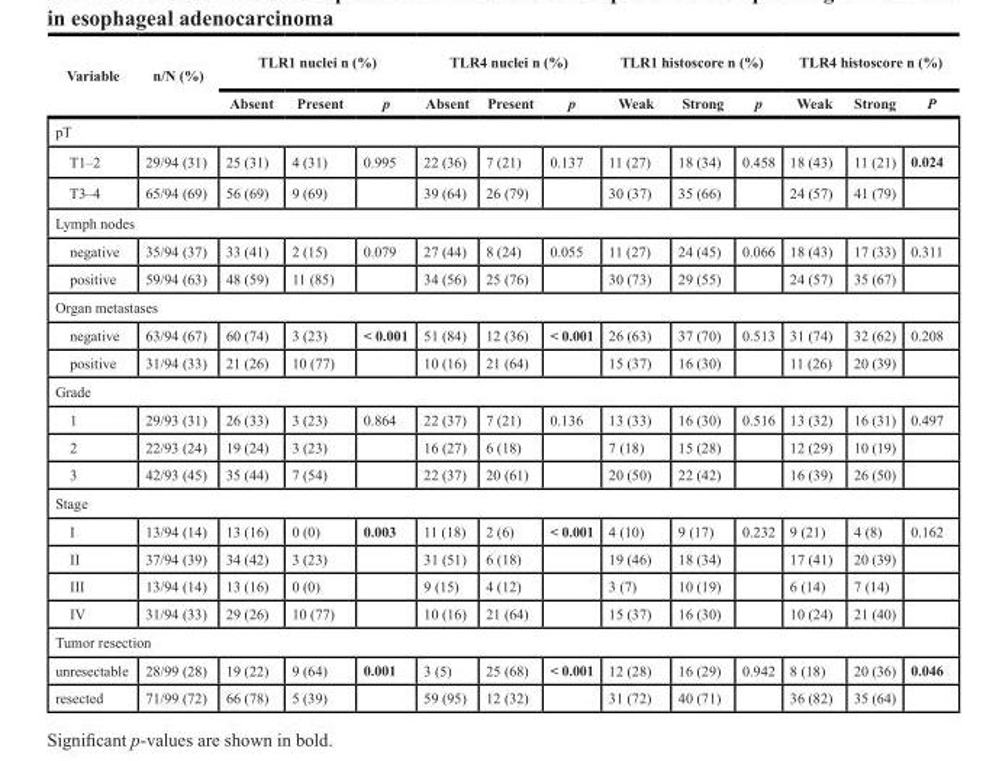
<table><thead><tr><td rowspan="2">Variable</td><td rowspan="2">n/N (%)</td><td colspan="3">TLR1 nuclei n (%)</td><td colspan="3">TLR4 nuclei n (%)</td><td colspan="3">TLR1 histoscore n (%)</td><td colspan="3">TLR4 histoscore n (%)</td></tr><tr><td>Absent</td><td>Present</td><td>p</td><td>Absent</td><td>Present</td><td>p</td><td>Weak</td><td>Strong</td><td>p</td><td>Weak</td><td>Strong</td><td>P</td></tr></thead><tbody><tr><td colspan="14">pT</td></tr><tr><td>T1–2</td><td>29/94 (31)</td><td>25 (31)</td><td>4 (31)</td><td>0.995</td><td>22 (36)</td><td>7 (21)</td><td>0.137</td><td>11 (27)</td><td>18 (34)</td><td>0.458</td><td>18 (43)</td><td>11 (21)</td><td>0.024</td></tr><tr><td>T3–4</td><td>65/94 (69)</td><td>56 (69)</td><td>9 (69)</td><td></td><td>39 (64)</td><td>26 (79)</td><td></td><td>30 (37)</td><td>35 (66)</td><td></td><td>24 (57)</td><td>41 (79)</td><td></td></tr><tr><td colspan="14">Lymph nodes</td></tr><tr><td>negative</td><td>35/94 (37)</td><td>33 (41)</td><td>2 (15)</td><td>0.079</td><td>27 (44)</td><td>8 (24)</td><td>0.055</td><td>11 (27)</td><td>24 (45)</td><td>0.066</td><td>18 (43)</td><td>17 (33)</td><td>0.311</td></tr><tr><td>positive</td><td>59/94 (63)</td><td>48 (59)</td><td>11 (85)</td><td></td><td>34 (56)</td><td>25 (76)</td><td></td><td>30 (73)</td><td>29 (55)</td><td></td><td>24 (57)</td><td>35 (67)</td><td></td></tr><tr><td colspan="14">Organ metastases</td></tr><tr><td>negative</td><td>63/94 (67)</td><td>60 (74)</td><td>3 (23)</td><td>&lt; 0.001</td><td>51 (84)</td><td>12 (36)</td><td>&lt; 0.001</td><td>26 (63)</td><td>37 (70)</td><td>0.513</td><td>31 (74)</td><td>32 (62)</td><td>0.208</td></tr><tr><td>positive</td><td>31/94 (33)</td><td>21 (26)</td><td>10 (77)</td><td></td><td>10 (16)</td><td>21 (64)</td><td></td><td>15 (37)</td><td>16 (30)</td><td></td><td>11 (26)</td><td>20 (39)</td><td></td></tr><tr><td colspan="14">Grade</td></tr><tr><td>1</td><td>29/93 (31)</td><td>26 (33)</td><td>3 (23)</td><td>0.864</td><td>22 (37)</td><td>7 (21)</td><td>0.136</td><td>13 (33)</td><td>16 (30)</td><td>0.516</td><td>13 (32)</td><td>16 (31)</td><td>0.497</td></tr><tr><td>2</td><td>22/93 (24)</td><td>19 (24)</td><td>3 (23)</td><td></td><td>16 (27)</td><td>6 (18)</td><td></td><td>7 (18)</td><td>15 (28)</td><td></td><td>12 (29)</td><td>10 (19)</td><td></td></tr><tr><td>3</td><td>42/93 (45)</td><td>35 (44)</td><td>7 (54)</td><td></td><td>22 (37)</td><td>20 (61)</td><td></td><td>20 (50)</td><td>22 (42)</td><td></td><td>16 (39)</td><td>26 (50)</td><td></td></tr><tr><td colspan="14">Stage</td></tr><tr><td>I</td><td>13/94 (14)</td><td>13 (16)</td><td>0 (0)</td><td>0.003</td><td>11 (18)</td><td>2 (6)</td><td>&lt; 0.001</td><td>4 (10)</td><td>9 (17)</td><td>0.232</td><td>9 (21)</td><td>4 (8)</td><td>0.162</td></tr><tr><td>II</td><td>37/94 (39)</td><td>34 (42)</td><td>3 (23)</td><td></td><td>31 (51)</td><td>6 (18)</td><td></td><td>19 (46)</td><td>18 (34)</td><td></td><td>17 (41)</td><td>20 (39)</td><td></td></tr><tr><td>III</td><td>13/94 (14)</td><td>13 (16)</td><td>0 (0)</td><td></td><td>9 (15)</td><td>4 (12)</td><td></td><td>3 (7)</td><td>10 (19)</td><td></td><td>6 (14)</td><td>7 (14)</td><td></td></tr><tr><td>IV</td><td>31/94 (33)</td><td>29 (26)</td><td>10 (77)</td><td></td><td>10 (16)</td><td>21 (64)</td><td></td><td>15 (37)</td><td>16 (30)</td><td></td><td>10 (24)</td><td>21 (40)</td><td></td></tr><tr><td colspan="14">Tumor resection</td></tr><tr><td>unresectable</td><td>28/99 (28)</td><td>19 (22)</td><td>9 (64)</td><td>0.001</td><td>3 (5)</td><td>25 (68)</td><td>&lt; 0.001</td><td>12 (28)</td><td>16 (29)</td><td>0.942</td><td>8 (18)</td><td>20 (36)</td><td>0.046</td></tr><tr><td>resected</td><td>71/99 (72)</td><td>66 (78)</td><td>5 (39)</td><td></td><td>59 (95)</td><td>12 (32)</td><td></td><td>31 (72)</td><td>40 (71)</td><td></td><td>36 (82)</td><td>35 (64)</td><td></td></tr></tbody></table>